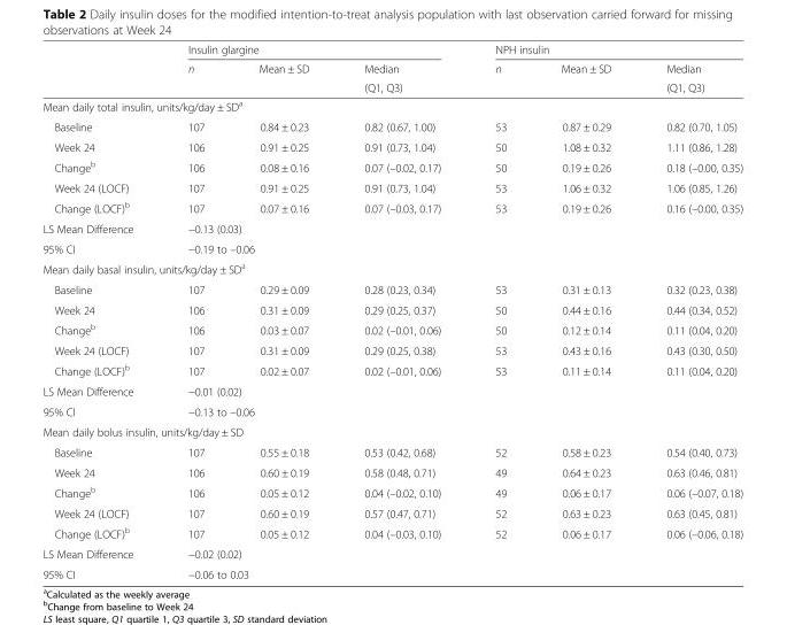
<table><thead><tr><td rowspan="3"></td><td colspan="3">Insulin glargine</td><td colspan="3">NPH insulin</td></tr><tr><td rowspan="2">n</td><td rowspan="2">Mean ± SD</td><td rowspan="2">Median (Q1, Q3)</td><td rowspan="2">n</td><td rowspan="2">Mean ± SD</td><td rowspan="2">Median (Q1, Q3)</td></tr><tr></tr></thead><tbody><tr><td colspan="7">Mean daily total insulin, units/kg/day ± SD<sup>a</sup></td></tr><tr><td>Baseline</td><td>107</td><td>0.84 ± 0.23</td><td>0.82 (0.67, 1.00)</td><td>53</td><td>0.87 ± 0.29</td><td>0.82 (0.70, 1.05)</td></tr><tr><td>Week 24</td><td>106</td><td>0.91 ± 0.25</td><td>0.91 (0.73, 1.04)</td><td>50</td><td>1.08 ± 0.32</td><td>1.11 (0.86, 1.28)</td></tr><tr><td>Change<sup>b</sup></td><td>106</td><td>0.08 ± 0.16</td><td>0.07 (–0.02, 0.17)</td><td>50</td><td>0.19 ± 0.26</td><td>0.18 (–0.00, 0.35)</td></tr><tr><td>Week 24 (LOCF)</td><td>107</td><td>0.91 ± 0.25</td><td>0.91 (0.73, 1.04)</td><td>53</td><td>1.06 ± 0.32</td><td>1.06 (0.85, 1.26)</td></tr><tr><td>Change (LOCF)<sup>b</sup></td><td>107</td><td>0.07 ± 0.16</td><td>0.07 (–0.03, 0.17)</td><td>53</td><td>0.19 ± 0.26</td><td>0.16 (–0.00, 0.35)</td></tr><tr><td>LS Mean Difference</td><td colspan="6">−0.13 (0.03)</td></tr><tr><td>95% CI</td><td colspan="6">−0.19 to –0.06</td></tr><tr><td colspan="7">Mean daily basal insulin, units/kg/day ± SD<sup>a</sup></td></tr><tr><td>Baseline</td><td>107</td><td>0.29 ± 0.09</td><td>0.28 (0.23, 0.34)</td><td>53</td><td>0.31 ± 0.13</td><td>0.32 (0.23, 0.38)</td></tr><tr><td>Week 24</td><td>106</td><td>0.31 ± 0.09</td><td>0.29 (0.25, 0.37)</td><td>50</td><td>0.44 ± 0.16</td><td>0.44 (0.34, 0.52)</td></tr><tr><td>Change<sup>b</sup></td><td>106</td><td>0.03 ± 0.07</td><td>0.02 (–0.01, 0.06)</td><td>50</td><td>0.12 ± 0.14</td><td>0.11 (0.04, 0.20)</td></tr><tr><td>Week 24 (LOCF)</td><td>107</td><td>0.31 ± 0.09</td><td>0.29 (0.25, 0.38)</td><td>53</td><td>0.43 ± 0.16</td><td>0.43 (0.30, 0.50)</td></tr><tr><td>Change (LOCF)<sup>b</sup></td><td>107</td><td>0.02 ± 0.07</td><td>0.02 (–0.01, 0.06)</td><td>53</td><td>0.11 ± 0.14</td><td>0.11 (0.04, 0.20)</td></tr><tr><td>LS Mean Difference</td><td colspan="6">−0.01 (0.02)</td></tr><tr><td>95% CI</td><td colspan="6">−0.13 to –0.06</td></tr><tr><td colspan="7">Mean daily bolus insulin, units/kg/day ± SD</td></tr><tr><td>Baseline</td><td>107</td><td>0.55 ± 0.18</td><td>0.53 (0.42, 0.68)</td><td>52</td><td>0.58 ± 0.23</td><td>0.54 (0.40, 0.73)</td></tr><tr><td>Week 24</td><td>106</td><td>0.60 ± 0.19</td><td>0.58 (0.48, 0.71)</td><td>49</td><td>0.64 ± 0.23</td><td>0.63 (0.46, 0.81)</td></tr><tr><td>Change<sup>b</sup></td><td>106</td><td>0.05 ± 0.12</td><td>0.04 (–0.02, 0.10)</td><td>49</td><td>0.06 ± 0.17</td><td>0.06 (–0.07, 0.18)</td></tr><tr><td>Week 24 (LOCF)</td><td>107</td><td>0.60 ± 0.19</td><td>0.57 (0.47, 0.71)</td><td>52</td><td>0.63 ± 0.23</td><td>0.63 (0.45, 0.81)</td></tr><tr><td>Change (LOCF)<sup>b</sup></td><td>107</td><td>0.05 ± 0.12</td><td>0.04 (–0.03, 0.10)</td><td>52</td><td>0.06 ± 0.17</td><td>0.06 (–0.06, 0.18)</td></tr><tr><td>LS Mean Difference</td><td colspan="6">−0.02 (0.02)</td></tr><tr><td>95% CI</td><td colspan="6">−0.06 to 0.03</td></tr></tbody></table>